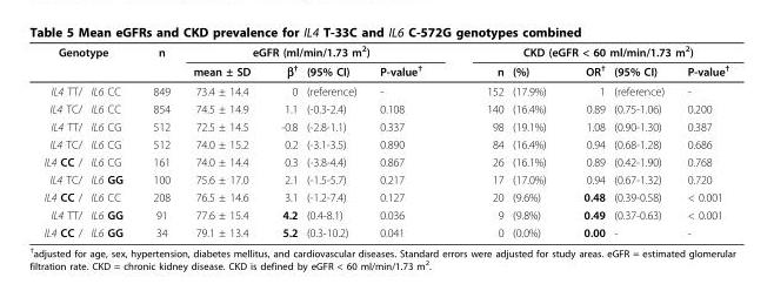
<table><thead><tr><td colspan="2">Genotype</td><td rowspan="2">n</td><td colspan="4">eGFR (ml/min/1.73 m<sup>2</sup>)</td><td colspan="5">CKD (eGFR &lt; 60 ml/min/1.73 m<sup>2</sup>)</td></tr><tr><td></td><td></td><td>mean ± SD</td><td>β<sup>†</sup></td><td>(95% CI)</td><td>P-value<sup>†</sup></td><td>n</td><td>(%)</td><td>OR<sup>†</sup></td><td>(95% CI)</td><td>P-value<sup>†</sup></td></tr></thead><tbody><tr><td>IL4 TT/</td><td>IL6 CC</td><td>849</td><td>73.4 ± 14.4</td><td>0</td><td>(reference)</td><td>-</td><td>152</td><td>(17.9%)</td><td>1</td><td>(reference)</td><td>-</td></tr><tr><td>IL4 TC/</td><td>IL6 CC</td><td>854</td><td>74.5 ± 14.9</td><td>1.1</td><td>(-0.3-2.4)</td><td>0.108</td><td>140</td><td>(16.4%)</td><td>0.89</td><td>(0.75-1.06)</td><td>0.200</td></tr><tr><td>IL4 TT/</td><td>IL6 CG</td><td>512</td><td>72.5 ± 14.5</td><td>-0.8</td><td>(-2.8-1.1)</td><td>0.337</td><td>98</td><td>(19.1%)</td><td>1.08</td><td>(0.90-1.30)</td><td>0.387</td></tr><tr><td>IL4 TC/</td><td>IL6 CG</td><td>512</td><td>74.0 ± 15.2</td><td>0.2</td><td>(-3.1-3.5)</td><td>0.890</td><td>84</td><td>(16.4%)</td><td>0.94</td><td>(0.68-1.28)</td><td>0.686</td></tr><tr><td>IL4 CC /</td><td>IL6 CG</td><td>161</td><td>74.0 ± 14.4</td><td>0.3</td><td>(-3.8-4.4)</td><td>0.867</td><td>26</td><td>(16.1%)</td><td>0.89</td><td>(0.42-1.90)</td><td>0.768</td></tr><tr><td>IL4 TC/</td><td>IL6 GG</td><td>100</td><td>75.6 ± 17.0</td><td>2.1</td><td>(-1.5-5.7)</td><td>0.217</td><td>17</td><td>(17.0%)</td><td>0.94</td><td>(0.67-1.32)</td><td>0.720</td></tr><tr><td>IL4 CC /</td><td>IL6 CC</td><td>208</td><td>76.5 ± 14.6</td><td>3.1</td><td>(-1.2-7.4)</td><td>0.127</td><td>20</td><td>(9.6%)</td><td>0.48</td><td>(0.39-0.58)</td><td>&lt; 0.001</td></tr><tr><td>IL4 TT/</td><td>IL6 GG</td><td>91</td><td>77.6 ± 15.4</td><td>4.2</td><td>(0.4-8.1)</td><td>0.036</td><td>9</td><td>(9.8%)</td><td>0.49</td><td>(0.37-0.63)</td><td>&lt; 0.001</td></tr><tr><td>IL4 CC /</td><td>IL6 GG</td><td>34</td><td>79.1 ± 13.4</td><td>5.2</td><td>(0.3-10.2)</td><td>0.041</td><td>0</td><td>(0.0%)</td><td>0.00</td><td>-</td><td>-</td></tr></tbody></table>